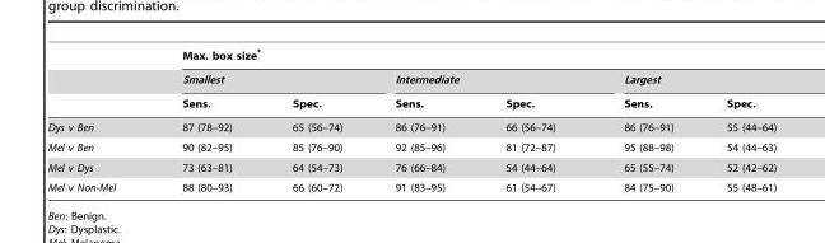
<table><thead><tr><td rowspan="3"></td><td colspan="6">Max. box size*</td></tr><tr><td colspan="2">Smallest</td><td colspan="2">Intermediate</td><td colspan="2">Largest</td></tr><tr><td>Sens.</td><td>Spec.</td><td>Sens.</td><td>Spec.</td><td>Sens.</td><td>Spec.</td></tr></thead><tbody><tr><td>Dys v Ben</td><td>87 (78–92)</td><td>65 (56–74)</td><td>86 (76–91)</td><td>66 (56–74)</td><td>86 (76–91)</td><td>55 (44–64)</td></tr><tr><td>Mel v Ben</td><td>90 (82–95)</td><td>85 (76–90)</td><td>92 (85–96)</td><td>81 (72–87)</td><td>95 (88–98)</td><td>54 (44–63)</td></tr><tr><td>Mel v Dys</td><td>73 (63–81)</td><td>64 (54–73)</td><td>76 (66–84)</td><td>54 (44–64)</td><td>65 (55–74)</td><td>52 (42–62)</td></tr><tr><td>Mel v Non-Mel</td><td>88 (80–93)</td><td>66 (60–72)</td><td>91 (83–95)</td><td>61 (54–67)</td><td>84 (75–90)</td><td>55 (48–61)</td></tr></tbody></table>